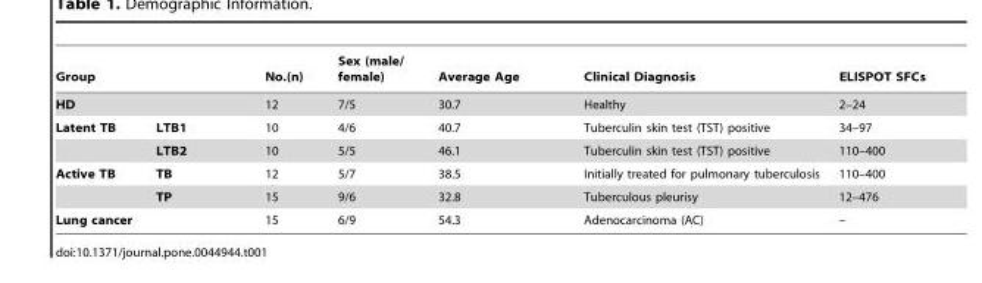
<table><thead><tr><td rowspan="2" colspan="2">Group HD</td><td rowspan="3">No.(n) 12 10</td><td rowspan="3">Sex (male/ female) 7/5 4/6</td><td rowspan="3">Average Age 30.7 40.7</td><td rowspan="3">Clinical Diagnosis Healthy Tuberculin skin test (TST) positive</td><td rowspan="3">ELISPOT SFCs 2–24 34–97</td></tr><tr></tr><tr><td>Latent TB</td><td>LTB1</td></tr></thead><tbody><tr><td></td><td>LTB2</td><td>10</td><td>5/5</td><td>46.1</td><td>Tuberculin skin test (TST) positive</td><td>110–400</td></tr><tr><td rowspan="2">Active TB</td><td>TB</td><td>12</td><td>5/7</td><td>38.5</td><td>Initially treated for pulmonary tuberculosis</td><td>110–400</td></tr><tr><td>TP</td><td>15</td><td>9/6</td><td>32.8</td><td>Tuberculous pleurisy</td><td>12–476</td></tr><tr><td colspan="2">Lung cancer</td><td>15</td><td>6/9</td><td>54.3</td><td>Adenocarcinoma (AC)</td><td>–</td></tr></tbody></table>